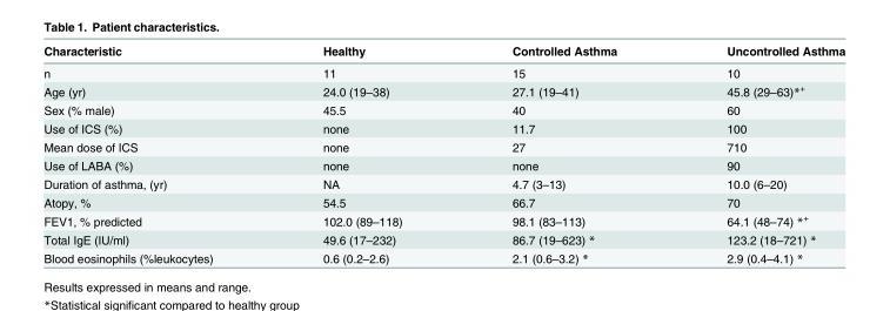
<table><thead><tr><td>Characteristic</td><td>Healthy</td><td>Controlled Asthma</td><td>Uncontrolled Asthma</td></tr></thead><tbody><tr><td>n</td><td>11</td><td>15</td><td>10</td></tr><tr><td>Age (yr)</td><td>24.0 (19–38)</td><td>27.1 (19–41)</td><td>45.8 (29–63)*<sup>+</sup></td></tr><tr><td>Sex (% male)</td><td>45.5</td><td>40</td><td>60</td></tr><tr><td>Use of ICS (%)</td><td>none</td><td>11.7</td><td>100</td></tr><tr><td>Mean dose of ICS</td><td>none</td><td>27</td><td>710</td></tr><tr><td>Use of LABA (%)</td><td>none</td><td>none</td><td>90</td></tr><tr><td>Duration of asthma, (yr)</td><td>NA</td><td>4.7 (3–13)</td><td>10.0 (6–20)</td></tr><tr><td>Atopy, %</td><td>54.5</td><td>66.7</td><td>70</td></tr><tr><td>FEV1, % predicted</td><td>102.0 (89–118)</td><td>98.1 (83–113)</td><td>64.1 (48–74) *<sup>+</sup></td></tr><tr><td>Total IgE (IU/ml)</td><td>49.6 (17–232)</td><td>86.7 (19–623) *</td><td>123.2 (18–721) *</td></tr><tr><td>Blood eosinophils (%leukocytes)</td><td>0.6 (0.2–2.6)</td><td>2.1 (0.6–3.2) *</td><td>2.9 (0.4–4.1) *</td></tr></tbody></table>